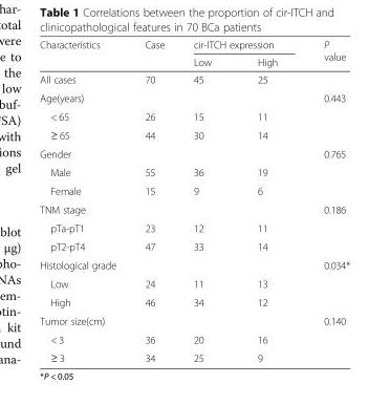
<table><thead><tr><td rowspan="2">Characteristics</td><td rowspan="2">Case</td><td colspan="2">cir-ITCH expression</td><td rowspan="2">P value</td></tr><tr><td>Low</td><td>High</td></tr></thead><tbody><tr><td>All cases</td><td>70</td><td>45</td><td>25</td><td></td></tr><tr><td>Age(years)</td><td></td><td></td><td></td><td>0.443</td></tr><tr><td>&lt; 65</td><td>26</td><td>15</td><td>11</td><td></td></tr><tr><td>≥ 65</td><td>44</td><td>30</td><td>14</td><td></td></tr><tr><td>Gender</td><td></td><td></td><td></td><td>0.765</td></tr><tr><td>Male</td><td>55</td><td>36</td><td>19</td><td></td></tr><tr><td>Female</td><td>15</td><td>9</td><td>6</td><td></td></tr><tr><td>TNM stage</td><td></td><td></td><td></td><td>0.186</td></tr><tr><td>pTa-pT1</td><td>23</td><td>12</td><td>11</td><td></td></tr><tr><td>pT2-pT4</td><td>47</td><td>33</td><td>14</td><td></td></tr><tr><td>Histological grade</td><td></td><td></td><td></td><td>0.034*</td></tr><tr><td>Low</td><td>24</td><td>11</td><td>13</td><td></td></tr><tr><td>High</td><td>46</td><td>34</td><td>12</td><td></td></tr><tr><td>Tumor size(cm)</td><td></td><td></td><td></td><td>0.140</td></tr><tr><td>&lt; 3</td><td>36</td><td>20</td><td>16</td><td></td></tr><tr><td>≥ 3</td><td>34</td><td>25</td><td>9</td><td></td></tr></tbody></table>